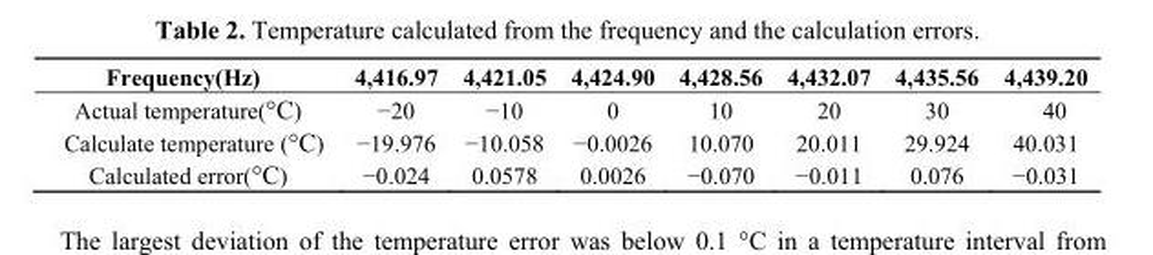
<table><thead><tr><td>Frequency(Hz)</td><td>4,416.97</td><td>4,421.05</td><td>4,424.90</td><td>4,428.56</td><td>4,432.07</td><td>4,435.56</td><td>4,439.20</td></tr></thead><tbody><tr><td>Actual temperature(°C)</td><td>−20</td><td>−10</td><td>0</td><td>10</td><td>20</td><td>30</td><td>40</td></tr><tr><td>Calculate temperature (°C)</td><td>−19.976</td><td>−10.058</td><td>−0.0026</td><td>10.070</td><td>20.011</td><td>29.924</td><td>40.031</td></tr><tr><td>Calculated error(°C)</td><td>−0.024</td><td>0.0578</td><td>0.0026</td><td>−0.070</td><td>−0.011</td><td>0.076</td><td>−0.031</td></tr></tbody></table>